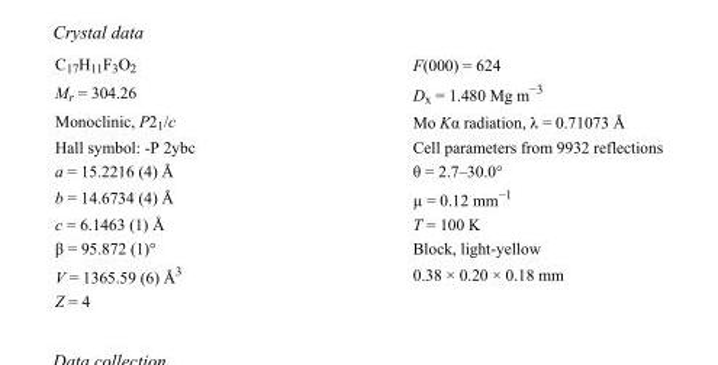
<table><tbody><tr><td>C<sub>17</sub>H<sub>11</sub>F<sub>3</sub>O<sub>2</sub></td><td>F(000) = 624</td></tr><tr><td>M<sub>r</sub> = 304.26</td><td>D<sub>x</sub> = 1.480 Mg m<sup>−3</sup></td></tr><tr><td>Monoclinic, P2<sub>1</sub>/c</td><td>Mo Kα radiation, λ = 0.71073 Å</td></tr><tr><td>Hall symbol: -P 2ybc</td><td>Cell parameters from 9932 reflections</td></tr><tr><td>a = 15.2216 (4) Å</td><td>θ = 2.7–30.0°</td></tr><tr><td>b = 14.6734 (4) Å</td><td>µ = 0.12 mm<sup>−1</sup></td></tr><tr><td>c = 6.1463 (1) Å</td><td>T = 100 K</td></tr><tr><td>β = 95.872 (1)°</td><td>Block, light-yellow</td></tr><tr><td>V = 1365.59 (6) Å<sup>3</sup></td><td>0.38 × 0.20 × 0.18 mm</td></tr><tr><td>Z = 4</td><td></td></tr></tbody></table>